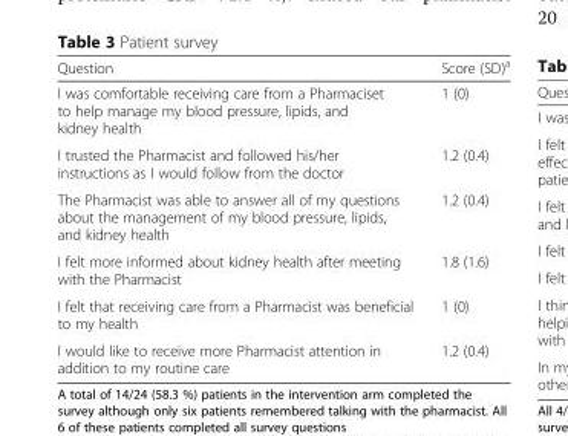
<table><thead><tr><td>Question</td><td>Score (SD)<sup>a</sup></td></tr></thead><tbody><tr><td>I was comfortable receiving care from a Pharmaciset to help manage my blood pressure, lipids, and kidney health</td><td>1 (0)</td></tr><tr><td>I trusted the Pharmacist and followed his/her instructions as I would follow from the doctor</td><td>1.2 (0.4)</td></tr><tr><td>The Pharmacist was able to answer all of my questions about the management of my blood pressure, lipids, and kidney health</td><td>1.2 (0.4)</td></tr><tr><td>I felt more informed about kidney health after meeting with the Pharmacist</td><td>1.8 (1.6)</td></tr><tr><td>I felt that receiving care from a Pharmacist was beneficial to my health</td><td>1 (0)</td></tr><tr><td>I would like to receive more Pharmacist attention in addition to my routine care</td><td>1.2 (0.4)</td></tr></tbody></table>